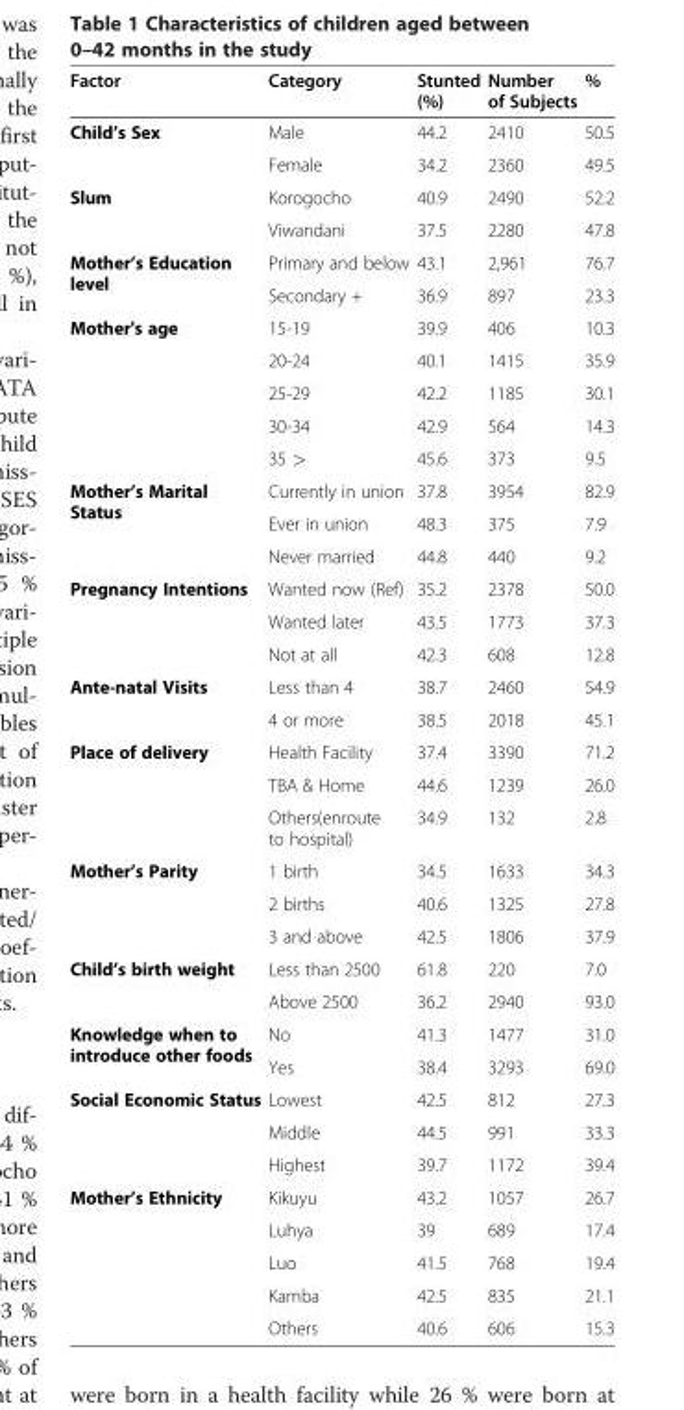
<table><thead><tr><td>Factor</td><td>Category</td><td>Stunted (%)</td><td>Number of Subjects</td><td>%</td></tr></thead><tbody><tr><td rowspan="2">Child’s Sex</td><td>Male</td><td>44.2</td><td>2410</td><td>50.5</td></tr><tr><td>Female</td><td>34.2</td><td>2360</td><td>49.5</td></tr><tr><td rowspan="2">Slum</td><td>Korogocho</td><td>40.9</td><td>2490</td><td>52.2</td></tr><tr><td>Viwandani</td><td>37.5</td><td>2280</td><td>47.8</td></tr><tr><td rowspan="2">Mother’s Education level</td><td>Primary and below</td><td>43.1</td><td>2,961</td><td>76.7</td></tr><tr><td>Secondary +</td><td>36.9</td><td>897</td><td>23.3</td></tr><tr><td rowspan="5">Mother&#x27;s age</td><td>15-19</td><td>39.9</td><td>406</td><td>10.3</td></tr><tr><td>20-24</td><td>40.1</td><td>1415</td><td>35.9</td></tr><tr><td>25-29</td><td>42.2</td><td>1185</td><td>30.1</td></tr><tr><td>30-34</td><td>42.9</td><td>564</td><td>14.3</td></tr><tr><td>35 &gt;</td><td>45.6</td><td>373</td><td>9.5</td></tr><tr><td rowspan="3">Mother’s Marital Status</td><td>Currently in union</td><td>37.8</td><td>3954</td><td>82.9</td></tr><tr><td>Ever in union</td><td>48.3</td><td>375</td><td>7.9</td></tr><tr><td>Never married</td><td>44.8</td><td>440</td><td>9.2</td></tr><tr><td rowspan="3">Pregnancy Intentions</td><td>Wanted now (Ref)</td><td>35.2</td><td>2378</td><td>50.0</td></tr><tr><td>Wanted later</td><td>43.5</td><td>1773</td><td>37.3</td></tr><tr><td>Not at all</td><td>42.3</td><td>608</td><td>12.8</td></tr><tr><td rowspan="2">Ante-natal Visits</td><td>Less than 4</td><td>38.7</td><td>2460</td><td>54.9</td></tr><tr><td>4 or more</td><td>38.5</td><td>2018</td><td>45.1</td></tr><tr><td rowspan="3">Place of delivery</td><td>Health Facility</td><td>37.4</td><td>3390</td><td>71.2</td></tr><tr><td>TBA &amp; Home</td><td>44.6</td><td>1239</td><td>26.0</td></tr><tr><td>Others(enroute to hospital)</td><td>34.9</td><td>132</td><td>2.8</td></tr><tr><td rowspan="3">Mother’s Parity</td><td>1 birth</td><td>34.5</td><td>1633</td><td>34.3</td></tr><tr><td>2 births</td><td>40.6</td><td>1325</td><td>27.8</td></tr><tr><td>3 and above</td><td>42.5</td><td>1806</td><td>37.9</td></tr><tr><td rowspan="2">Child’s birth weight</td><td>Less than 2500</td><td>61.8</td><td>220</td><td>7.0</td></tr><tr><td>Above 2500</td><td>36.2</td><td>2940</td><td>93.0</td></tr><tr><td rowspan="2">Knowledge when to introduce other foods</td><td>No</td><td>41.3</td><td>1477</td><td>31.0</td></tr><tr><td>Yes</td><td>38.4</td><td>3293</td><td>69.0</td></tr><tr><td rowspan="3">Social Economic Status</td><td>Lowest</td><td>42.5</td><td>812</td><td>27.3</td></tr><tr><td>Middle</td><td>44.5</td><td>991</td><td>33.3</td></tr><tr><td>Highest</td><td>39.7</td><td>1172</td><td>39.4</td></tr><tr><td rowspan="5">Mother’s Ethnicity</td><td>Kikuyu</td><td>43.2</td><td>1057</td><td>26.7</td></tr><tr><td>Luhya</td><td>39</td><td>689</td><td>17.4</td></tr><tr><td>Luo</td><td>41.5</td><td>768</td><td>19.4</td></tr><tr><td>Kamba</td><td>42.5</td><td>835</td><td>21.1</td></tr><tr><td>Others</td><td>40.6</td><td>606</td><td>15.3</td></tr></tbody></table>